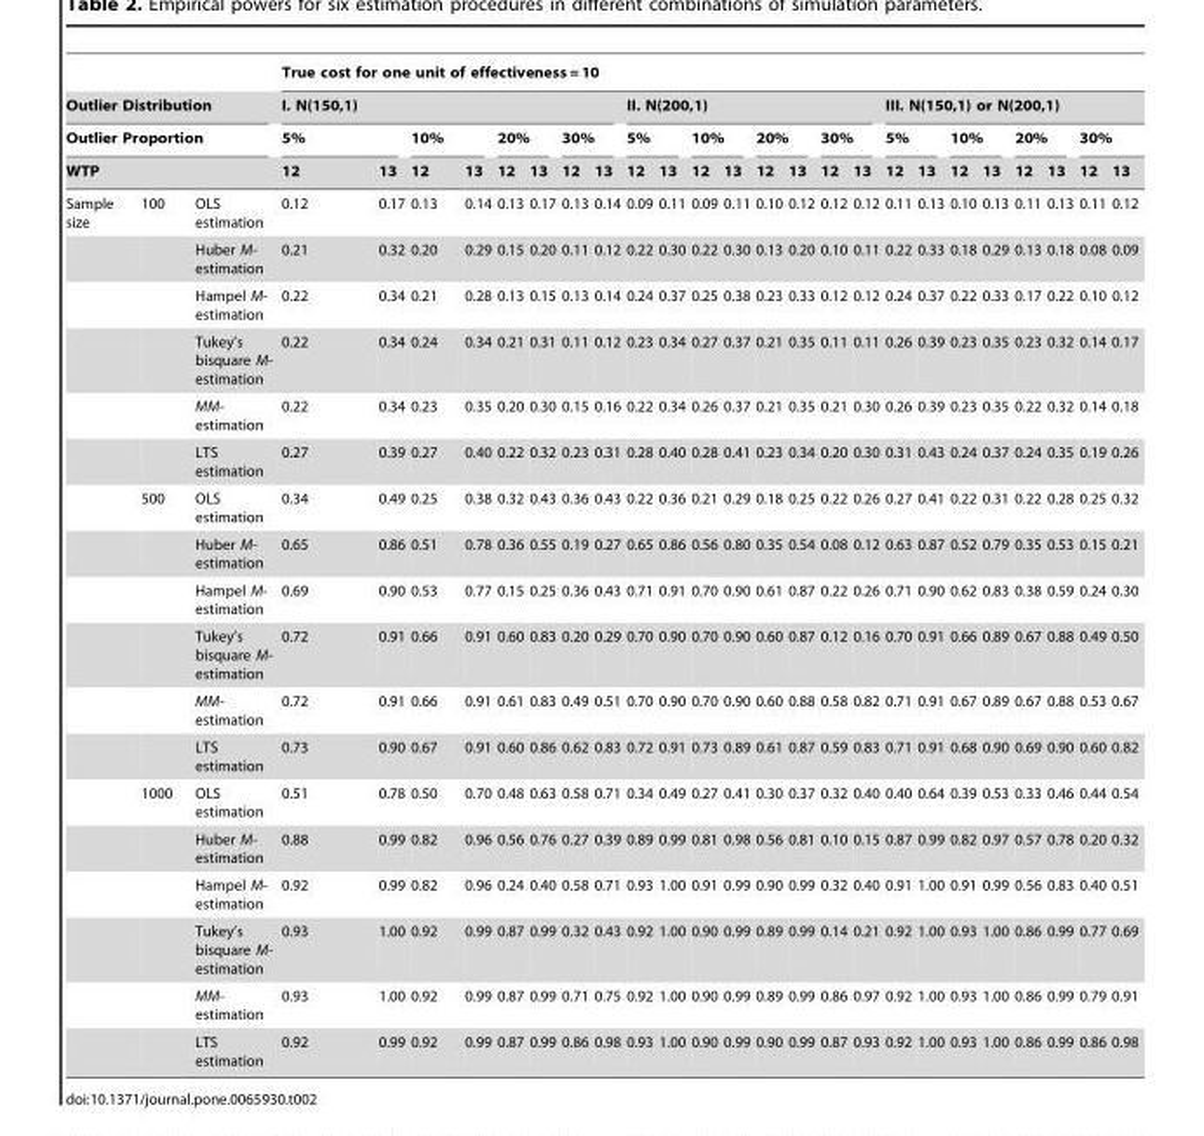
<table><thead><tr><td></td><td></td><td></td><td colspan="24">True cost for one unit of effectiveness = 10</td></tr><tr><td rowspan="3" colspan="3">Outlier Distribution Outlier Proportion WTP</td><td colspan="8">I. N(150,1)</td><td colspan="8">II. N(200,1)</td><td colspan="8">III. N(150,1) or N(200,1)</td></tr><tr><td colspan="2">5%</td><td colspan="2">10%</td><td colspan="2">20%</td><td colspan="2">30%</td><td colspan="2">5%</td><td colspan="2">10%</td><td colspan="2">20%</td><td colspan="2">30%</td><td colspan="2">5%</td><td colspan="2">10%</td><td colspan="2">20%</td><td colspan="2">30%</td></tr><tr><td>12</td><td>13</td><td>12</td><td>13</td><td>12</td><td>13</td><td>12</td><td>13</td><td>12</td><td>13</td><td>12</td><td>13</td><td>12</td><td>13</td><td>12</td><td>13</td><td>12</td><td>13</td><td>12</td><td>13</td><td>12</td><td>13</td><td>12</td><td>13</td></tr></thead><tbody><tr><td rowspan="18">Sample size</td><td>100</td><td>OLS estimation</td><td>0.12</td><td>0.17</td><td>0.13</td><td>0.14</td><td>0.13</td><td>0.17</td><td>0.13</td><td>0.14</td><td>0.09</td><td>0.11</td><td>0.09</td><td>0.11</td><td>0.10</td><td>0.12</td><td>0.12</td><td>0.12</td><td>0.11</td><td>0.13</td><td>0.10</td><td>0.13</td><td>0.11</td><td>0.13</td><td>0.11</td><td>0.12</td></tr><tr><td></td><td>Huber M- estimation</td><td>0.21</td><td>0.32</td><td>0.20</td><td>0.29</td><td>0.15</td><td>0.20</td><td>0.11</td><td>0.12</td><td>0.22</td><td>0.30</td><td>0.22</td><td>0.30</td><td>0.13</td><td>0.20</td><td>0.10</td><td>0.11</td><td>0.22</td><td>0.33</td><td>0.18</td><td>0.29</td><td>0.13</td><td>0.18</td><td>0.08</td><td>0.09</td></tr><tr><td></td><td>Hampel M- estimation</td><td>0.22</td><td>0.34</td><td>0.21</td><td>0.28</td><td>0.13</td><td>0.15</td><td>0.13</td><td>0.14</td><td>0.24</td><td>0.37</td><td>0.25</td><td>0.38</td><td>0.23</td><td>0.33</td><td>0.12</td><td>0.12</td><td>0.24</td><td>0.37</td><td>0.22</td><td>0.33</td><td>0.17</td><td>0.22</td><td>0.10</td><td>0.12</td></tr><tr><td></td><td>Tukey’s bisquare M- estimation</td><td>0.22</td><td>0.34</td><td>0.24</td><td>0.34</td><td>0.21</td><td>0.31</td><td>0.11</td><td>0.12</td><td>0.23</td><td>0.34</td><td>0.27</td><td>0.37</td><td>0.21</td><td>0.35</td><td>0.11</td><td>0.11</td><td>0.26</td><td>0.39</td><td>0.23</td><td>0.35</td><td>0.23</td><td>0.32</td><td>0.14</td><td>0.17</td></tr><tr><td></td><td>MM- estimation</td><td>0.22</td><td>0.34</td><td>0.23</td><td>0.35</td><td>0.20</td><td>0.30</td><td>0.15</td><td>0.16</td><td>0.22</td><td>0.34</td><td>0.26</td><td>0.37</td><td>0.21</td><td>0.35</td><td>0.21</td><td>0.30</td><td>0.26</td><td>0.39</td><td>0.23</td><td>0.35</td><td>0.22</td><td>0.32</td><td>0.14</td><td>0.18</td></tr><tr><td></td><td>LTS estimation</td><td>0.27</td><td>0.39</td><td>0.27</td><td>0.40</td><td>0.22</td><td>0.32</td><td>0.23</td><td>0.31</td><td>0.28</td><td>0.40</td><td>0.28</td><td>0.41</td><td>0.23</td><td>0.34</td><td>0.20</td><td>0.30</td><td>0.31</td><td>0.43</td><td>0.24</td><td>0.37</td><td>0.24</td><td>0.35</td><td>0.19</td><td>0.26</td></tr><tr><td>500</td><td>OLS estimation</td><td>0.34</td><td>0.49</td><td>0.25</td><td>0.38</td><td>0.32</td><td>0.43</td><td>0.36</td><td>0.43</td><td>0.22</td><td>0.36</td><td>0.21</td><td>0.29</td><td>0.18</td><td>0.25</td><td>0.22</td><td>0.26</td><td>0.27</td><td>0.41</td><td>0.22</td><td>0.31</td><td>0.22</td><td>0.28</td><td>0.25</td><td>0.32</td></tr><tr><td></td><td>Huber M- estimation</td><td>0.65</td><td>0.86</td><td>0.51</td><td>0.78</td><td>0.36</td><td>0.55</td><td>0.19</td><td>0.27</td><td>0.65</td><td>0.86</td><td>0.56</td><td>0.80</td><td>0.35</td><td>0.54</td><td>0.08</td><td>0.12</td><td>0.63</td><td>0.87</td><td>0.52</td><td>0.79</td><td>0.35</td><td>0.53</td><td>0.15</td><td>0.21</td></tr><tr><td></td><td>Hampel M- estimation</td><td>0.69</td><td>0.90</td><td>0.53</td><td>0.77</td><td>0.15</td><td>0.25</td><td>0.36</td><td>0.43</td><td>0.71</td><td>0.91</td><td>0.70</td><td>0.90</td><td>0.61</td><td>0.87</td><td>0.22</td><td>0.26</td><td>0.71</td><td>0.90</td><td>0.62</td><td>0.83</td><td>0.38</td><td>0.59</td><td>0.24</td><td>0.30</td></tr><tr><td></td><td>Tukey’s bisquare M- estimation</td><td>0.72</td><td>0.91</td><td>0.66</td><td>0.91</td><td>0.60</td><td>0.83</td><td>0.20</td><td>0.29</td><td>0.70</td><td>0.90</td><td>0.70</td><td>0.90</td><td>0.60</td><td>0.87</td><td>0.12</td><td>0.16</td><td>0.70</td><td>0.91</td><td>0.66</td><td>0.89</td><td>0.67</td><td>0.88</td><td>0.49</td><td>0.50</td></tr><tr><td></td><td>MM- estimation</td><td>0.72</td><td>0.91</td><td>0.66</td><td>0.91</td><td>0.61</td><td>0.83</td><td>0.49</td><td>0.51</td><td>0.70</td><td>0.90</td><td>0.70</td><td>0.90</td><td>0.60</td><td>0.88</td><td>0.58</td><td>0.82</td><td>0.71</td><td>0.91</td><td>0.67</td><td>0.89</td><td>0.67</td><td>0.88</td><td>0.53</td><td>0.67</td></tr><tr><td></td><td>LTS estimation</td><td>0.73</td><td>0.90</td><td>0.67</td><td>0.91</td><td>0.60</td><td>0.86</td><td>0.62</td><td>0.83</td><td>0.72</td><td>0.91</td><td>0.73</td><td>0.89</td><td>0.61</td><td>0.87</td><td>0.59</td><td>0.83</td><td>0.71</td><td>0.91</td><td>0.68</td><td>0.90</td><td>0.69</td><td>0.90</td><td>0.60</td><td>0.82</td></tr><tr><td>1000</td><td>OLS estimation</td><td>0.51</td><td>0.78</td><td>0.50</td><td>0.70</td><td>0.48</td><td>0.63</td><td>0.58</td><td>0.71</td><td>0.34</td><td>0.49</td><td>0.27</td><td>0.41</td><td>0.30</td><td>0.37</td><td>0.32</td><td>0.40</td><td>0.40</td><td>0.64</td><td>0.39</td><td>0.53</td><td>0.33</td><td>0.46</td><td>0.44</td><td>0.54</td></tr><tr><td></td><td>Huber M- estimation</td><td>0.88</td><td>0.99</td><td>0.82</td><td>0.96</td><td>0.56</td><td>0.76</td><td>0.27</td><td>0.39</td><td>0.89</td><td>0.99</td><td>0.81</td><td>0.98</td><td>0.56</td><td>0.81</td><td>0.10</td><td>0.15</td><td>0.87</td><td>0.99</td><td>0.82</td><td>0.97</td><td>0.57</td><td>0.78</td><td>0.20</td><td>0.32</td></tr><tr><td></td><td>Hampel M- estimation</td><td>0.92</td><td>0.99</td><td>0.82</td><td>0.96</td><td>0.24</td><td>0.40</td><td>0.58</td><td>0.71</td><td>0.93</td><td>1.00</td><td>0.91</td><td>0.99</td><td>0.90</td><td>0.99</td><td>0.32</td><td>0.40</td><td>0.91</td><td>1.00</td><td>0.91</td><td>0.99</td><td>0.56</td><td>0.83</td><td>0.40</td><td>0.51</td></tr><tr><td></td><td>Tukey’s bisquare M- estimation</td><td>0.93</td><td>1.00</td><td>0.92</td><td>0.99</td><td>0.87</td><td>0.99</td><td>0.32</td><td>0.43</td><td>0.92</td><td>1.00</td><td>0.90</td><td>0.99</td><td>0.89</td><td>0.99</td><td>0.14</td><td>0.21</td><td>0.92</td><td>1.00</td><td>0.93</td><td>1.00</td><td>0.86</td><td>0.99</td><td>0.77</td><td>0.69</td></tr><tr><td></td><td>MM- estimation</td><td>0.93</td><td>1.00</td><td>0.92</td><td>0.99</td><td>0.87</td><td>0.99</td><td>0.71</td><td>0.75</td><td>0.92</td><td>1.00</td><td>0.90</td><td>0.99</td><td>0.89</td><td>0.99</td><td>0.86</td><td>0.97</td><td>0.92</td><td>1.00</td><td>0.93</td><td>1.00</td><td>0.86</td><td>0.99</td><td>0.79</td><td>0.91</td></tr><tr><td></td><td>LTS estimation</td><td>0.92</td><td>0.99</td><td>0.92</td><td>0.99</td><td>0.87</td><td>0.99</td><td>0.86</td><td>0.98</td><td>0.93</td><td>1.00</td><td>0.90</td><td>0.99</td><td>0.90</td><td>0.99</td><td>0.87</td><td>0.93</td><td>0.92</td><td>1.00</td><td>0.93</td><td>1.00</td><td>0.86</td><td>0.99</td><td>0.86</td><td>0.98</td></tr></tbody></table>